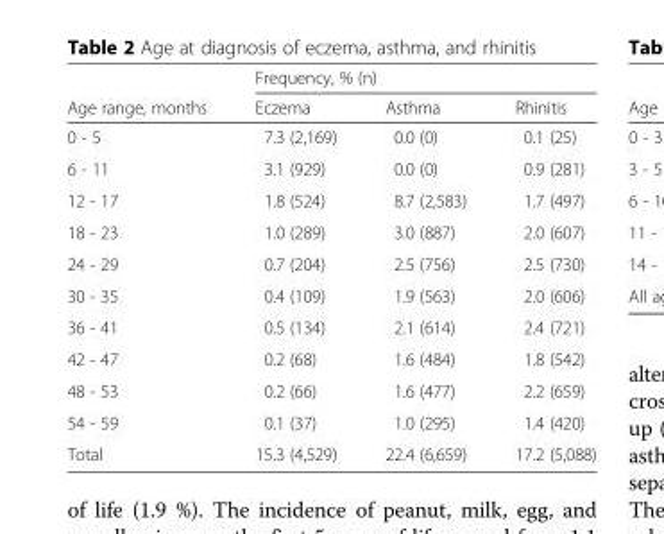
<table><thead><tr><td rowspan="2">Age range, months</td><td colspan="3">Frequency, % (n)</td></tr><tr><td>Eczema</td><td>Asthma</td><td>Rhinitis</td></tr></thead><tbody><tr><td>0 - 5</td><td>7.3 (2,169)</td><td>0.0 (0)</td><td>0.1 (25)</td></tr><tr><td>6 - 11</td><td>3.1 (929)</td><td>0.0 (0)</td><td>0.9 (281)</td></tr><tr><td>12 - 17</td><td>1.8 (524)</td><td>8.7 (2,583)</td><td>1.7 (497)</td></tr><tr><td>18 - 23</td><td>1.0 (289)</td><td>3.0 (887)</td><td>2.0 (607)</td></tr><tr><td>24 - 29</td><td>0.7 (204)</td><td>2.5 (756)</td><td>2.5 (730)</td></tr><tr><td>30 - 35</td><td>0.4 (109)</td><td>1.9 (563)</td><td>2.0 (606)</td></tr><tr><td>36 - 41</td><td>0.5 (134)</td><td>2.1 (614)</td><td>2.4 (721)</td></tr><tr><td>42 - 47</td><td>0.2 (68)</td><td>1.6 (484)</td><td>1.8 (542)</td></tr><tr><td>48 - 53</td><td>0.2 (66)</td><td>1.6 (477)</td><td>2.2 (659)</td></tr><tr><td>54 - 59</td><td>0.1 (37)</td><td>1.0 (295)</td><td>1.4 (420)</td></tr><tr><td>Total</td><td>15.3 (4,529)</td><td>22.4 (6,659)</td><td>17.2 (5,088)</td></tr></tbody></table>